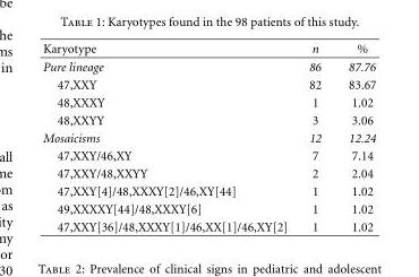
<table><thead><tr><td>Karyotype</td><td>n</td><td>%</td></tr></thead><tbody><tr><td>Pure lineage</td><td>86</td><td>87.76</td></tr><tr><td>47,XXY</td><td>82</td><td>83.67</td></tr><tr><td>48,XXXY</td><td>1</td><td>1.02</td></tr><tr><td>48,XXYY</td><td>3</td><td>3.06</td></tr><tr><td>Mosaicisms</td><td>12</td><td>12.24</td></tr><tr><td>47,XXY/46,XY</td><td>7</td><td>7.14</td></tr><tr><td>47,XXY/48,XXYY</td><td>2</td><td>2.04</td></tr><tr><td>47,XXY[4]/48,XXXY[2]/46,XY[44]</td><td>1</td><td>1.02</td></tr><tr><td>49,XXXXY[44]/48,XXXY[6]</td><td>1</td><td>1.02</td></tr><tr><td>47,XXY[36]/48,XXXY[1]/46,XX[1]/46,XY[2]</td><td>1</td><td>1.02</td></tr></tbody></table>